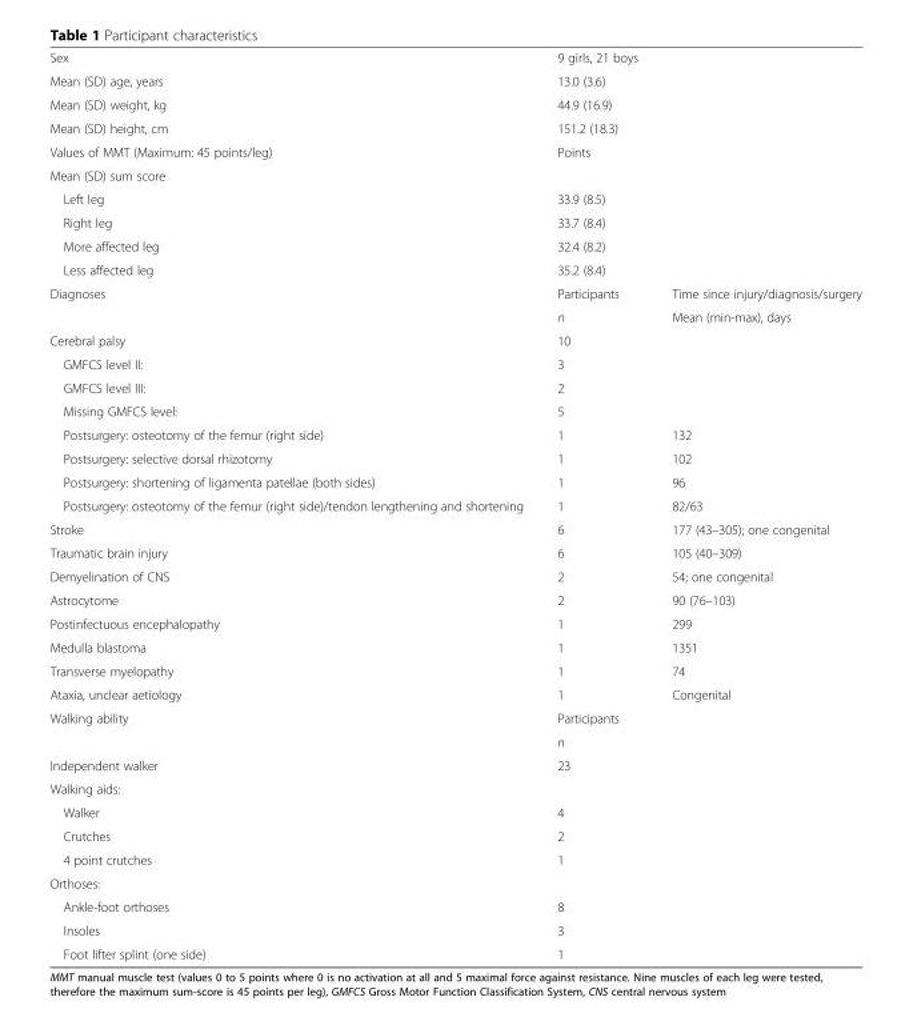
<table><tbody><tr><td>Sex</td><td>9 girls, 21 boys</td><td></td></tr><tr><td>Mean (SD) age, years</td><td>13.0 (3.6)</td><td></td></tr><tr><td>Mean (SD) weight, kg</td><td>44.9 (16.9)</td><td></td></tr><tr><td>Mean (SD) height, cm</td><td>151.2 (18.3)</td><td></td></tr><tr><td>Values of MMT (Maximum: 45 points/leg)</td><td>Points</td><td></td></tr><tr><td colspan="3">Mean (SD) sum score</td></tr><tr><td>Left leg</td><td>33.9 (8.5)</td><td></td></tr><tr><td>Right leg</td><td>33.7 (8.4)</td><td></td></tr><tr><td>More affected leg</td><td>32.4 (8.2)</td><td></td></tr><tr><td>Less affected leg</td><td>35.2 (8.4)</td><td></td></tr><tr><td rowspan="2">Diagnoses</td><td>Participants</td><td>Time since injury/diagnosis/surgery</td></tr><tr><td>n</td><td>Mean (min-max), days</td></tr><tr><td>Cerebral palsy</td><td>10</td><td></td></tr><tr><td>GMFCS level II:</td><td>3</td><td></td></tr><tr><td>GMFCS level III:</td><td>2</td><td></td></tr><tr><td>Missing GMFCS level:</td><td>5</td><td></td></tr><tr><td>Postsurgery: osteotomy of the femur (right side)</td><td>1</td><td>132</td></tr><tr><td>Postsurgery: selective dorsal rhizotomy</td><td>1</td><td>102</td></tr><tr><td>Postsurgery: shortening of ligamenta patellae (both sides)</td><td>1</td><td>96</td></tr><tr><td>Postsurgery: osteotomy of the femur (right side)/tendon lengthening and shortening</td><td>1</td><td>82/63</td></tr><tr><td>Stroke</td><td>6</td><td>177 (43–305); one congenital</td></tr><tr><td>Traumatic brain injury</td><td>6</td><td>105 (40–309)</td></tr><tr><td>Demyelination of CNS</td><td>2</td><td>54; one congenital</td></tr><tr><td>Astrocytome</td><td>2</td><td>90 (76–103)</td></tr><tr><td>Postinfectuous encephalopathy</td><td>1</td><td>299</td></tr><tr><td>Medulla blastoma</td><td>1</td><td>1351</td></tr><tr><td>Transverse myelopathy</td><td>1</td><td>74</td></tr><tr><td>Ataxia, unclear aetiology</td><td>1</td><td>Congenital</td></tr><tr><td rowspan="2">Walking ability</td><td>Participants</td><td rowspan="2"></td></tr><tr><td>n</td></tr><tr><td>Independent walker</td><td>23</td><td></td></tr><tr><td colspan="3">Walking aids:</td></tr><tr><td>Walker</td><td>4</td><td></td></tr><tr><td>Crutches</td><td>2</td><td></td></tr><tr><td>4 point crutches</td><td>1</td><td></td></tr><tr><td colspan="3">Orthoses:</td></tr><tr><td>Ankle-foot orthoses</td><td>8</td><td></td></tr><tr><td>Insoles</td><td>3</td><td></td></tr><tr><td>Foot lifter splint (one side)</td><td>1</td><td></td></tr></tbody></table>